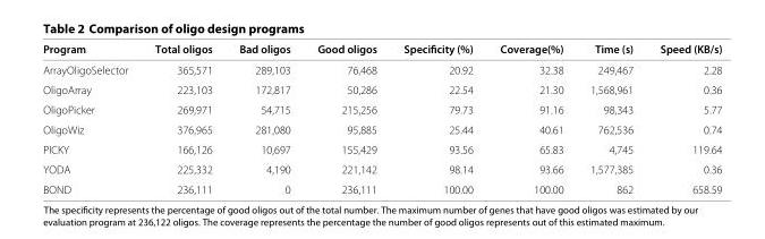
<table><thead><tr><td>Program</td><td>Total oligos</td><td>Bad oligos</td><td>Good oligos</td><td>Specificity (%)</td><td>Coverage(%)</td><td>Time (s)</td><td>Speed (KB/s)</td></tr></thead><tbody><tr><td>ArrayOligoSelector</td><td>365,571</td><td>289,103</td><td>76,468</td><td>20.92</td><td>32.38</td><td>249,467</td><td>2.28</td></tr><tr><td>OligoArray</td><td>223,103</td><td>172,817</td><td>50,286</td><td>22.54</td><td>21.30</td><td>1,568,961</td><td>0.36</td></tr><tr><td>OligoPicker</td><td>269,971</td><td>54,715</td><td>215,256</td><td>79.73</td><td>91.16</td><td>98,343</td><td>5.77</td></tr><tr><td>OligoWiz</td><td>376,965</td><td>281,080</td><td>95,885</td><td>25.44</td><td>40.61</td><td>762,536</td><td>0.74</td></tr><tr><td>PICKY</td><td>166,126</td><td>10,697</td><td>155,429</td><td>93.56</td><td>65.83</td><td>4,745</td><td>119.64</td></tr><tr><td>YODA</td><td>225,332</td><td>4,190</td><td>221,142</td><td>98.14</td><td>93.66</td><td>1,577,385</td><td>0.36</td></tr><tr><td>BOND</td><td>236,111</td><td>0</td><td>236,111</td><td>100.00</td><td>100.00</td><td>862</td><td>658.59</td></tr></tbody></table>